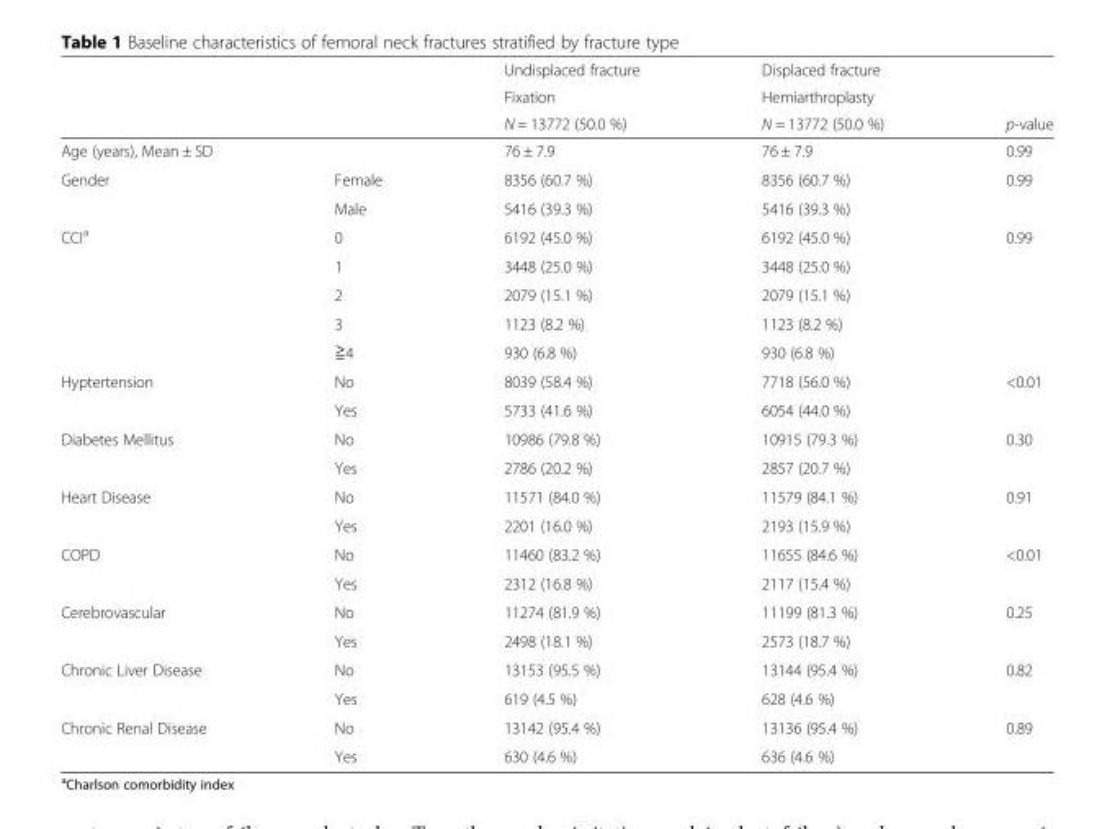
<table><thead><tr><td rowspan="3"></td><td rowspan="3"></td><td rowspan="3">Undisplaced fracture Fixation N = 13772 (50.0 %)</td><td rowspan="3">Displaced fracture Hemiarthroplasty N = 13772 (50.0 %)</td><td rowspan="3">p-value</td></tr><tr></tr><tr></tr></thead><tbody><tr><td>Age (years), Mean ± SD</td><td></td><td>76 ± 7.9</td><td>76 ± 7.9</td><td>0.99</td></tr><tr><td rowspan="2">Gender</td><td>Female</td><td>8356 (60.7 %)</td><td>8356 (60.7 %)</td><td>0.99</td></tr><tr><td>Male</td><td>5416 (39.3 %)</td><td>5416 (39.3 %)</td><td></td></tr><tr><td rowspan="5">CCI<sup>a</sup></td><td>0</td><td>6192 (45.0 %)</td><td>6192 (45.0 %)</td><td>0.99</td></tr><tr><td>1</td><td>3448 (25.0 %)</td><td>3448 (25.0 %)</td><td></td></tr><tr><td>2</td><td>2079 (15.1 %)</td><td>2079 (15.1 %)</td><td></td></tr><tr><td>3</td><td>1123 (8.2 %)</td><td>1123 (8.2 %)</td><td></td></tr><tr><td>≧4</td><td>930 (6.8 %)</td><td>930 (6.8 %)</td><td></td></tr><tr><td rowspan="2">Hyptertension</td><td>No</td><td>8039 (58.4 %)</td><td>7718 (56.0 %)</td><td>&lt;0.01</td></tr><tr><td>Yes</td><td>5733 (41.6 %)</td><td>6054 (44.0 %)</td><td></td></tr><tr><td rowspan="2">Diabetes Mellitus</td><td>No</td><td>10986 (79.8 %)</td><td>10915 (79.3 %)</td><td>0.30</td></tr><tr><td>Yes</td><td>2786 (20.2 %)</td><td>2857 (20.7 %)</td><td></td></tr><tr><td rowspan="2">Heart Disease</td><td>No</td><td>11571 (84.0 %)</td><td>11579 (84.1 %)</td><td>0.91</td></tr><tr><td>Yes</td><td>2201 (16.0 %)</td><td>2193 (15.9 %)</td><td></td></tr><tr><td rowspan="2">COPD</td><td>No</td><td>11460 (83.2 %)</td><td>11655 (84.6 %)</td><td>&lt;0.01</td></tr><tr><td>Yes</td><td>2312 (16.8 %)</td><td>2117 (15.4 %)</td><td></td></tr><tr><td rowspan="2">Cerebrovascular</td><td>No</td><td>11274 (81.9 %)</td><td>11199 (81.3 %)</td><td>0.25</td></tr><tr><td>Yes</td><td>2498 (18.1 %)</td><td>2573 (18.7 %)</td><td></td></tr><tr><td rowspan="2">Chronic Liver Disease</td><td>No</td><td>13153 (95.5 %)</td><td>13144 (95.4 %)</td><td>0.82</td></tr><tr><td>Yes</td><td>619 (4.5 %)</td><td>628 (4.6 %)</td><td></td></tr><tr><td rowspan="2">Chronic Renal Disease</td><td>No</td><td>13142 (95.4 %)</td><td>13136 (95.4 %)</td><td>0.89</td></tr><tr><td>Yes</td><td>630 (4.6 %)</td><td>636 (4.6 %)</td><td></td></tr></tbody></table>